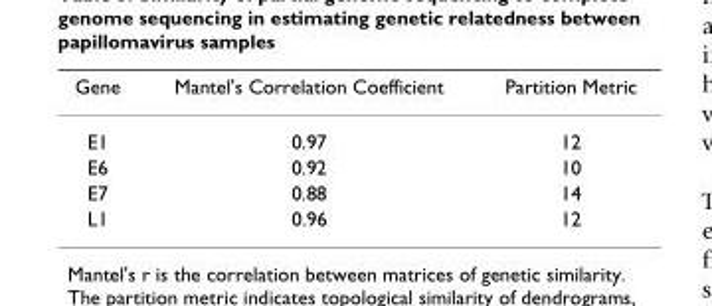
<table><thead><tr><td>Gene</td><td>Mantel&#x27;s Correlation Coefficient</td><td>Partition Metric</td></tr></thead><tbody><tr><td>E1</td><td>0.97</td><td>12</td></tr><tr><td>E6</td><td>0.92</td><td>10</td></tr><tr><td>E7</td><td>0.88</td><td>14</td></tr><tr><td>L1</td><td>0.96</td><td>12</td></tr></tbody></table>